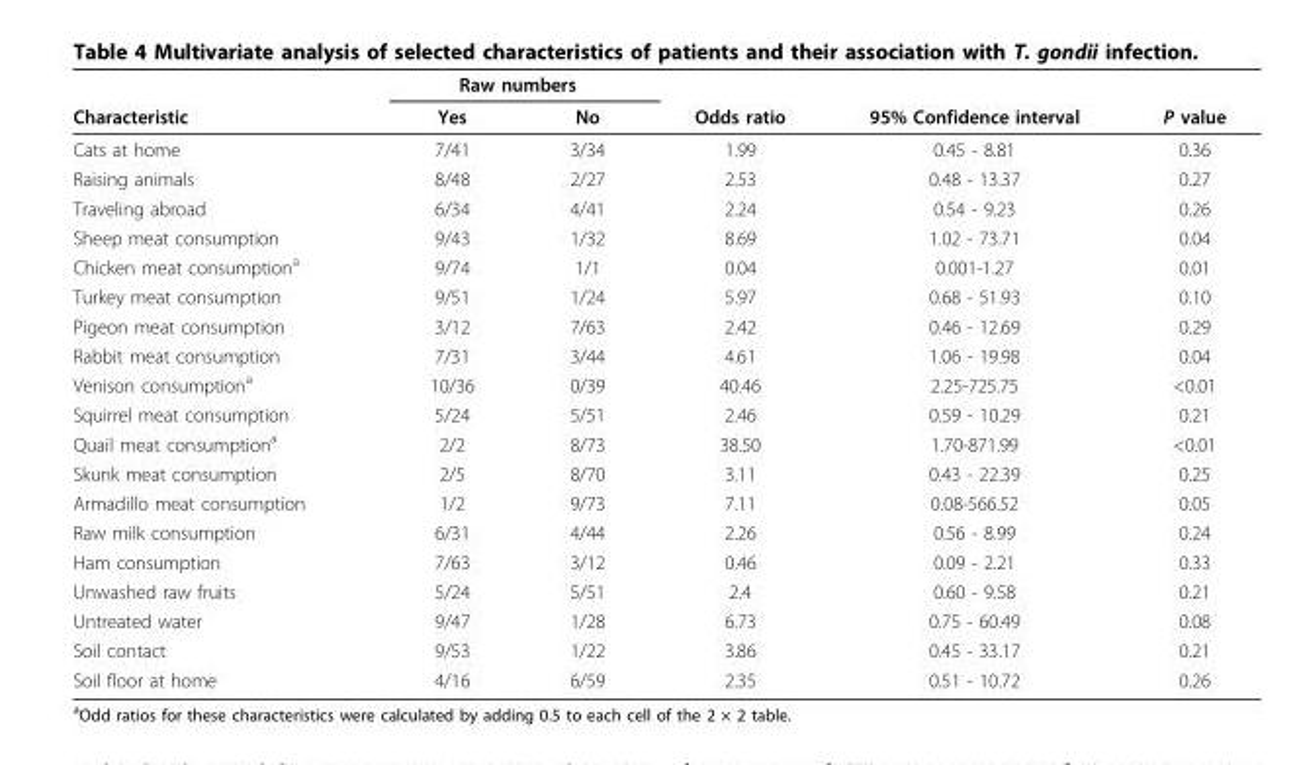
<table><thead><tr><td rowspan="2">Characteristic</td><td colspan="2">Raw numbers</td><td rowspan="2">Odds ratio</td><td rowspan="2">95% Confidence interval</td><td rowspan="2">P value</td></tr><tr><td>Yes</td><td>No</td></tr></thead><tbody><tr><td>Cats at home</td><td>7/41</td><td>3/34</td><td>1.99</td><td>0.45 - 8.81</td><td>0.36</td></tr><tr><td>Raising animals</td><td>8/48</td><td>2/27</td><td>2.53</td><td>0.48 - 13.37</td><td>0.27</td></tr><tr><td>Traveling abroad</td><td>6/34</td><td>4/41</td><td>2.24</td><td>0.54 - 9.23</td><td>0.26</td></tr><tr><td>Sheep meat consumption</td><td>9/43</td><td>1/32</td><td>8.69</td><td>1.02 - 73.71</td><td>0.04</td></tr><tr><td>Chicken meat consumption<sup>a</sup></td><td>9/74</td><td>1/1</td><td>0.04</td><td>0.001-1.27</td><td>0.01</td></tr><tr><td>Turkey meat consumption</td><td>9/51</td><td>1/24</td><td>5.97</td><td>0.68 - 51.93</td><td>0.10</td></tr><tr><td>Pigeon meat consumption</td><td>3/12</td><td>7/63</td><td>2.42</td><td>0.46 - 12.69</td><td>0.29</td></tr><tr><td>Rabbit meat consumption</td><td>7/31</td><td>3/44</td><td>4.61</td><td>1.06 - 19.98</td><td>0.04</td></tr><tr><td>Venison consumption<sup>a</sup></td><td>10/36</td><td>0/39</td><td>40.46</td><td>2.25-725.75</td><td>&lt;0.01</td></tr><tr><td>Squirrel meat consumption</td><td>5/24</td><td>5/51</td><td>2.46</td><td>0.59 - 10.29</td><td>0.21</td></tr><tr><td>Quail meat consumption<sup>a</sup></td><td>2/2</td><td>8/73</td><td>38.50</td><td>1.70-871.99</td><td>&lt;0.01</td></tr><tr><td>Skunk meat consumption</td><td>2/5</td><td>8/70</td><td>3.11</td><td>0.43 - 22.39</td><td>0.25</td></tr><tr><td>Armadillo meat consumption</td><td>1/2</td><td>9/73</td><td>7.11</td><td>0.08-566.52</td><td>0.05</td></tr><tr><td>Raw milk consumption</td><td>6/31</td><td>4/44</td><td>2.26</td><td>0.56 - 8.99</td><td>0.24</td></tr><tr><td>Ham consumption</td><td>7/63</td><td>3/12</td><td>0.46</td><td>0.09 - 2.21</td><td>0.33</td></tr><tr><td>Unwashed raw fruits</td><td>5/24</td><td>5/51</td><td>2.4</td><td>0.60 - 9.58</td><td>0.21</td></tr><tr><td>Untreated water</td><td>9/47</td><td>1/28</td><td>6.73</td><td>0.75 - 60.49</td><td>0.08</td></tr><tr><td>Soil contact</td><td>9/53</td><td>1/22</td><td>3.86</td><td>0.45 - 33.17</td><td>0.21</td></tr><tr><td>Soil floor at home</td><td>4/16</td><td>6/59</td><td>2.35</td><td>0.51 - 10.72</td><td>0.26</td></tr></tbody></table>